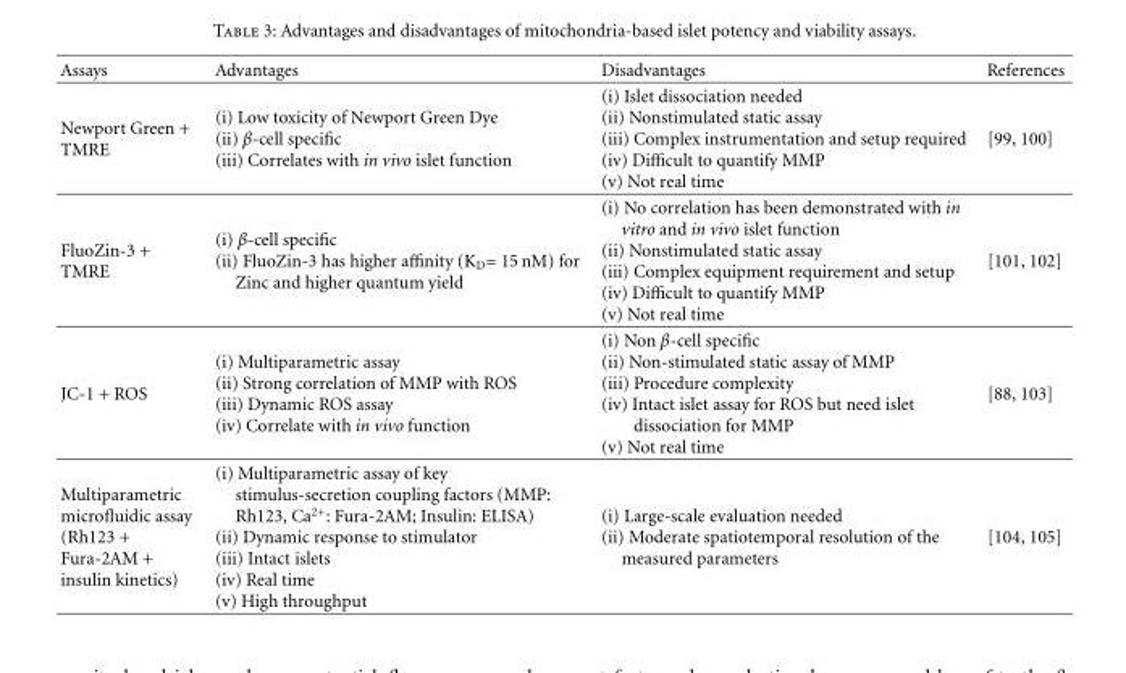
<table><thead><tr><td>Assays</td><td>Advantages</td><td>Disadvantages</td><td>References</td></tr></thead><tbody><tr><td>Newport Green + TMRE</td><td>(i) Low toxicity of Newport Green Dye (ii) β-cell specific (iii) Correlates with in vivo islet function</td><td>(i) Islet dissociation needed (ii) Nonstimulated static assay (iii) Complex instrumentation and setup required (iv) Difficult to quantify MMP (v) Not real time</td><td>[99, 100]</td></tr><tr><td>FluoZin-3 + TMRE</td><td>(i) β-cell specific (ii) FluoZin-3 has higher affinity (K<sub>D</sub>= 15 nM) for Zinc and higher quantum yield</td><td>(i) No correlation has been demonstrated with in vitro and in vivo islet function (ii) Nonstimulated static assay (iii) Complex equipment requirement and setup (iv) Difficult to quantify MMP (v) Not real time</td><td>[101, 102]</td></tr><tr><td>JC-1 + ROS</td><td>(i) Multiparametric assay (ii) Strong correlation of MMP with ROS (iii) Dynamic ROS assay (iv) Correlate with in vivo function</td><td>(i) Non β-cell specific (ii) Non-stimulated static assay of MMP (iii) Procedure complexity (iv) Intact islet assay for ROS but need islet dissociation for MMP (v) Not real time</td><td>[88, 103]</td></tr><tr><td>Multiparametric microfluidic assay (Rh123 + Fura-2AM + insulin kinetics)</td><td>(i) Multiparametric assay of key stimulus-secretion coupling factors (MMP: Rh123, Ca<sup>2+</sup>: Fura-2AM; Insulin: ELISA) (ii) Dynamic response to stimulator (iii) Intact islets (iv) Real time (v) High throughput</td><td>(i) Large-scale evaluation needed (ii) Moderate spatiotemporal resolution of the measured parameters</td><td>[104, 105]</td></tr></tbody></table>